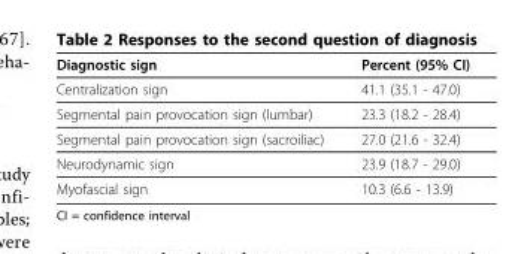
<table><thead><tr><td>Diagnostic sign</td><td>Percent (95% CI)</td></tr></thead><tbody><tr><td>Centralization sign</td><td>41.1 (35.1 - 47.0)</td></tr><tr><td>Segmental pain provocation sign (lumbar)</td><td>23.3 (18.2 - 28.4)</td></tr><tr><td>Segmental pain provocation sign (sacroiliac)</td><td>27.0 (21.6 - 32.4)</td></tr><tr><td>Neurodynamic sign</td><td>23.9 (18.7 - 29.0)</td></tr><tr><td>Myofascial sign</td><td>10.3 (6.6 - 13.9)</td></tr></tbody></table>